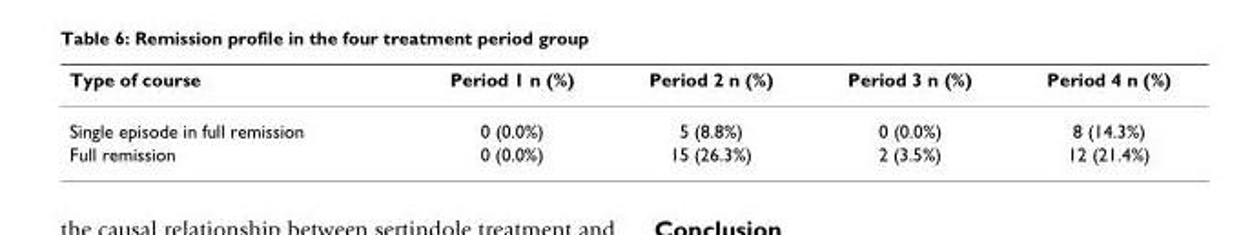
<table><thead><tr><td>Type of course</td><td>Period 1 n (%)</td><td>Period 2 n (%)</td><td>Period 3 n (%)</td><td>Period 4 n (%)</td></tr></thead><tbody><tr><td>Single episode in full remission</td><td>0 (0.0%)</td><td>5 (8.8%)</td><td>0 (0.0%)</td><td>8 (14.3%)</td></tr><tr><td>Full remission</td><td>0 (0.0%)</td><td>15 (26.3%)</td><td>2 (3.5%)</td><td>12 (21.4%)</td></tr></tbody></table>